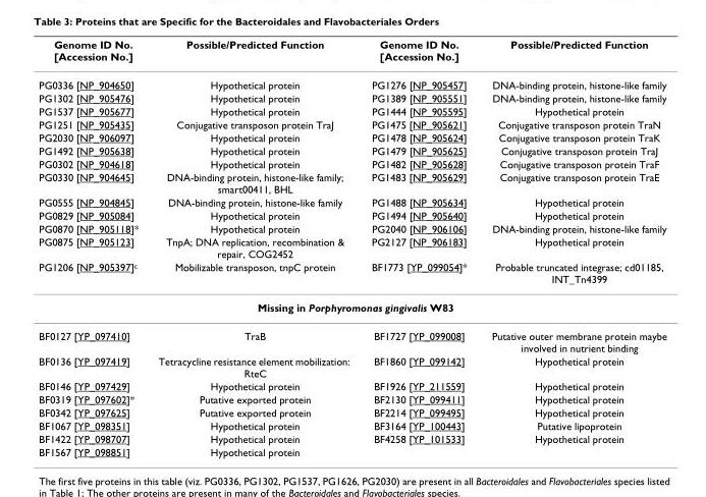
<table><thead><tr><td>Genome ID No. [Accession No.]</td><td>Possible/Predicted Function</td><td>Genome ID No. [Accession No.]</td><td>Possible/Predicted Function</td></tr></thead><tbody><tr><td>PG0336 [NP_904650]</td><td>Hypothetical protein</td><td>PG1276 [NP_905457]</td><td>DNA-binding protein, histone-like family</td></tr><tr><td>PG1302 [NP_905476]</td><td>Hypothetical protein</td><td>PG1389 [NP_905551]</td><td>DNA-binding protein, histone-like family</td></tr><tr><td>PG1537 [NP_905677]</td><td>Hypothetical protein</td><td>PG1444 [NP_905595]</td><td>Hypothetical protein</td></tr><tr><td>PG1251 [NP_905435]</td><td>Conjugative transposon protein TraJ</td><td>PG1475 [NP_905621]</td><td>Conjugative transposon protein TraN</td></tr><tr><td>PG2030 [NP_906097]</td><td>Hypothetical protein</td><td>PG1478 [NP_905624]</td><td>Conjugative transposon protein TraK</td></tr><tr><td>PG1492 [NP_905638]</td><td>Hypothetical protein</td><td>PG1479 [NP_905625]</td><td>Conjugative transposon protein TraJ</td></tr><tr><td>PG0302 [NP_904618]</td><td>Hypothetical protein</td><td>PG1482 [NP_905628]</td><td>Conjugative transposon protein TraF</td></tr><tr><td>PG0330 [NP_904645]</td><td>DNA-binding protein, histone-like family; smart00411, BHL</td><td>PG1483 [NP_905629]</td><td>Conjugative transposon protein TraE</td></tr><tr><td>PG0555 [NP_904845]</td><td>DNA-binding protein, histone-like family</td><td>PG1488 [NP_905634]</td><td>Hypothetical protein</td></tr><tr><td>PG0829 [NP_905084]</td><td>Hypothetical protein</td><td>PG1494 [NP_905640]</td><td>Hypothetical protein</td></tr><tr><td>PG0870 [NP_905118]*</td><td>Hypothetical protein</td><td>PG2040 [NP_906106]</td><td>DNA-binding protein, histone-like family</td></tr><tr><td>PG0875 [NP_905123]</td><td>TnpA; DNA replication, recombination &amp; repair, COG2452</td><td>PG2127 [NP_906183]</td><td>Hypothetical protein</td></tr><tr><td>PG1206 [NP_905397]<sup>c</sup></td><td>Mobilizable transposon, tnpC protein</td><td>BF1773 [YP_099054]*</td><td>Probable truncated integrase; cd01185, INT_Tn4399</td></tr><tr><td colspan="4">Missing in Porphyromonas gingivalis W83</td></tr><tr><td>BF0127 [YP_097410]</td><td>TraB</td><td>BF1727 [YP_099008]</td><td>Putative outer membrane protein maybe involved in nutrient binding</td></tr><tr><td>BF0136 [YP_097419]</td><td>Tetracycline resistance element mobilization: RteC</td><td>BF1860 [YP_099142]</td><td>Hypothetical protein</td></tr><tr><td>BF0146 [YP_097429]</td><td>Hypothetical protein</td><td>BF1926 [YP_211559]</td><td>Hypothetical protein</td></tr><tr><td>BF0319 [YP_097602]*</td><td>Putative exported protein</td><td>BF2130 [YP_099411]</td><td>Hypothetical protein</td></tr><tr><td>BF0342 [YP_097625]</td><td>Putative exported protein</td><td>BF2214 [YP_099495]</td><td>Hypothetical protein</td></tr><tr><td>BF1067 [YP_098351]</td><td>Hypothetical protein</td><td>BF3164 [YP_100443]</td><td>Putative lipoprotein</td></tr><tr><td>BF1422 [YP_098707]</td><td>Hypothetical protein</td><td>BF4258 [YP_101533]</td><td>Hypothetical protein</td></tr><tr><td>BF1567 [YP_098851]</td><td>Hypothetical protein</td><td></td><td></td></tr></tbody></table>